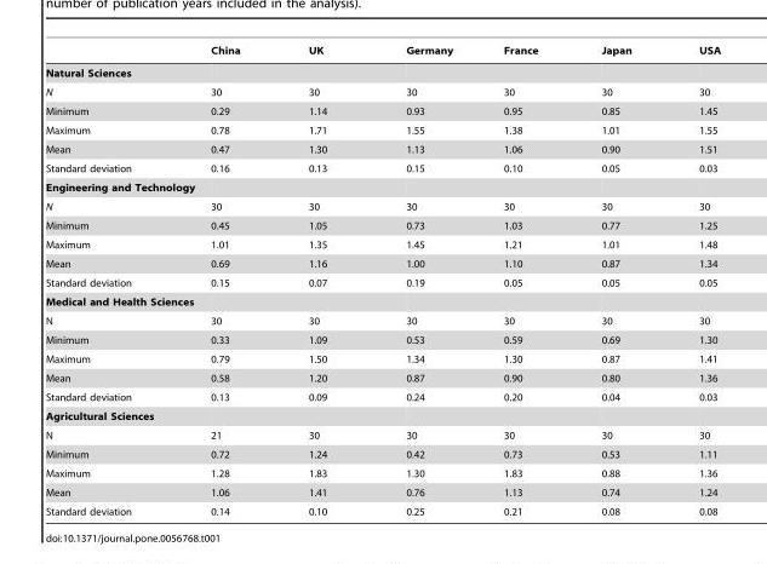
<table><thead><tr><td></td><td>China</td><td>UK</td><td>Germany</td><td>France</td><td>Japan</td><td>USA</td></tr></thead><tbody><tr><td colspan="7">Natural Sciences</td></tr><tr><td>N</td><td>30</td><td>30</td><td>30</td><td>30</td><td>30</td><td>30</td></tr><tr><td>Minimum</td><td>0.29</td><td>1.14</td><td>0.93</td><td>0.95</td><td>0.85</td><td>1.45</td></tr><tr><td>Maximum</td><td>0.78</td><td>1.71</td><td>1.55</td><td>1.38</td><td>1.01</td><td>1.55</td></tr><tr><td>Mean</td><td>0.47</td><td>1.30</td><td>1.13</td><td>1.06</td><td>0.90</td><td>1.51</td></tr><tr><td>Standard deviation</td><td>0.16</td><td>0.13</td><td>0.15</td><td>0.10</td><td>0.05</td><td>0.03</td></tr><tr><td colspan="7">Engineering and Technology</td></tr><tr><td>N</td><td>30</td><td>30</td><td>30</td><td>30</td><td>30</td><td>30</td></tr><tr><td>Minimum</td><td>0.45</td><td>1.05</td><td>0.73</td><td>1.03</td><td>0.77</td><td>1.25</td></tr><tr><td>Maximum</td><td>1.01</td><td>1.35</td><td>1.45</td><td>1.21</td><td>1.01</td><td>1.48</td></tr><tr><td>Mean</td><td>0.69</td><td>1.16</td><td>1.00</td><td>1.10</td><td>0.87</td><td>1.34</td></tr><tr><td>Standard deviation</td><td>0.15</td><td>0.07</td><td>0.19</td><td>0.05</td><td>0.05</td><td>0.05</td></tr><tr><td colspan="7">Medical and Health Sciences</td></tr><tr><td>N</td><td>30</td><td>30</td><td>30</td><td>30</td><td>30</td><td>30</td></tr><tr><td>Minimum</td><td>0.33</td><td>1.09</td><td>0.53</td><td>0.59</td><td>0.69</td><td>1.30</td></tr><tr><td>Maximum</td><td>0.79</td><td>1.50</td><td>1.34</td><td>1.30</td><td>0.87</td><td>1.41</td></tr><tr><td>Mean</td><td>0.58</td><td>1.20</td><td>0.87</td><td>0.90</td><td>0.80</td><td>1.36</td></tr><tr><td>Standard deviation</td><td>0.13</td><td>0.09</td><td>0.24</td><td>0.20</td><td>0.04</td><td>0.03</td></tr><tr><td colspan="7">Agricultural Sciences</td></tr><tr><td>N</td><td>21</td><td>30</td><td>30</td><td>30</td><td>30</td><td>30</td></tr><tr><td>Minimum</td><td>0.72</td><td>1.24</td><td>0.42</td><td>0.73</td><td>0.53</td><td>1.11</td></tr><tr><td>Maximum</td><td>1.28</td><td>1.83</td><td>1.30</td><td>1.83</td><td>0.88</td><td>1.36</td></tr><tr><td>Mean</td><td>1.06</td><td>1.41</td><td>0.76</td><td>1.13</td><td>0.74</td><td>1.24</td></tr><tr><td>Standard deviation</td><td>0.14</td><td>0.10</td><td>0.25</td><td>0.21</td><td>0.08</td><td>0.08</td></tr></tbody></table>